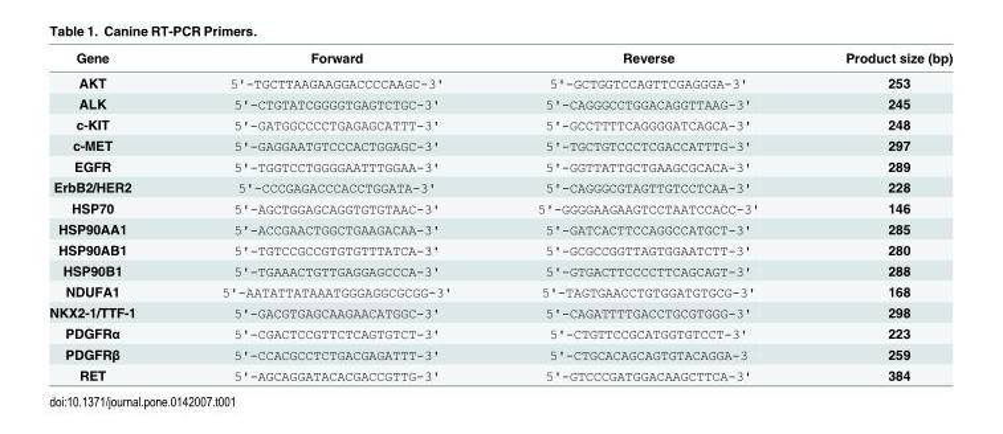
<table><thead><tr><td>Gene</td><td>Forward</td><td>Reverse</td><td>Product size (bp)</td></tr></thead><tbody><tr><td>AKT</td><td>5&#x27;-TGCTTAAGAAGGACCCCAAGC-3&#x27;</td><td>5&#x27;-GCTGGTCCAGTTCGAGGGA-3&#x27;</td><td>253</td></tr><tr><td>ALK</td><td>5&#x27;-CTGTATCGGGGTGAGTCTGC-3&#x27;</td><td>5&#x27;-CAGGGCCTGGACAGGTTAAG-3&#x27;</td><td>245</td></tr><tr><td>c-KIT</td><td>5&#x27;-GATGGCCCCTGAGAGCATTT-3&#x27;</td><td>5&#x27;-GCCTTTTCAGGGGATCAGCA-3&#x27;</td><td>248</td></tr><tr><td>c-MET</td><td>5&#x27;-GAGGAATGTCCCACTGGAGC-3&#x27;</td><td>5&#x27;-TGCTGTCCCTCGACCATTTG-3&#x27;</td><td>297</td></tr><tr><td>EGFR</td><td>5&#x27;-TGGTCCTGGGGAATTTGGAA-3&#x27;</td><td>5&#x27;-GGTTATTGCTGAAGCGCACA-3&#x27;</td><td>289</td></tr><tr><td>ErbB2/HER2</td><td>5&#x27;-CCCGAGACCCACCTGGATA-3&#x27;</td><td>5&#x27;-CAGGGCGTAGTTGTCCTCAA-3&#x27;</td><td>228</td></tr><tr><td>HSP70</td><td>5&#x27;-AGCTGGAGCAGGTGTGTAAC-3&#x27;</td><td>5&#x27;-GGGGAAGAAGTCCTAATCCACC-3&#x27;</td><td>146</td></tr><tr><td>HSP90AA1</td><td>5&#x27;-ACCGAACTGGCTGAAGACAA-3&#x27;</td><td>5&#x27;-GATCACTTCCAGGCCATGCT-3&#x27;</td><td>285</td></tr><tr><td>HSP90AB1</td><td>5&#x27;-TGTCCGCCGTGTGTTTATCA-3&#x27;</td><td>5&#x27;-GCGCCGGTTAGTGGAATCTT-3&#x27;</td><td>280</td></tr><tr><td>HSP90B1</td><td>5&#x27;-TGAAACTGTTGAGGAGCCCA-3&#x27;</td><td>5&#x27;-GTGACTTCCCCTTCAGCAGT-3&#x27;</td><td>288</td></tr><tr><td>NDUFA1</td><td>5&#x27;-AATATTATAAATGGGAGGCGCGG-3&#x27;</td><td>5&#x27;-TAGTGAACCTGTGGATGTGCG-3&#x27;</td><td>168</td></tr><tr><td>NKX2-1/TTF-1</td><td>5&#x27;-GACGTGAGCAAGAACATGGC-3&#x27;</td><td>5&#x27;-CAGATTTTGACCTGCGTGGG-3&#x27;</td><td>298</td></tr><tr><td>PDGFRα</td><td>5&#x27;-CGACTCCGTTCTCAGTGTCT-3&#x27;</td><td>5&#x27;-CTGTTCCGCATGGTGTCCT-3&#x27;</td><td>223</td></tr><tr><td>PDGFRβ</td><td>5&#x27;-CCACGCCTCTGACGAGATTT-3&#x27;</td><td>5&#x27;-CTGCACAGCAGTGTACAGGA-3</td><td>259</td></tr><tr><td>RET</td><td>5&#x27;-AGCAGGATACACGACCGTTG-3&#x27;</td><td>5&#x27;-GTCCCGATGGACAAGCTTCA-3&#x27;</td><td>384</td></tr></tbody></table>